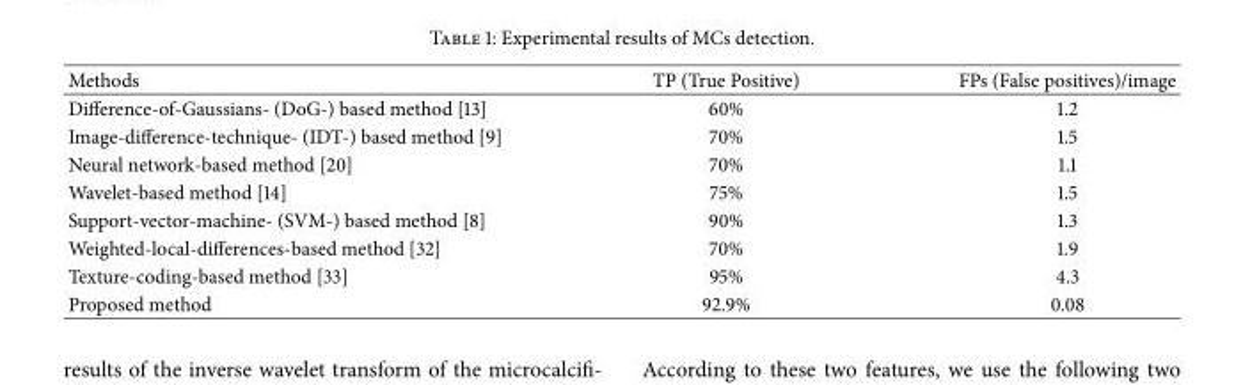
<table><thead><tr><td>Methods</td><td>TP (True Positive)</td><td>FPs (False positives)/image</td></tr></thead><tbody><tr><td>Difference-of-Gaussians- (DoG-) based method [13]</td><td>60%</td><td>1.2</td></tr><tr><td>Image-difference-technique- (IDT-) based method [9]</td><td>70%</td><td>1.5</td></tr><tr><td>Neural network-based method [20]</td><td>70%</td><td>1.1</td></tr><tr><td>Wavelet-based method [14]</td><td>75%</td><td>1.5</td></tr><tr><td>Support-vector-machine- (SVM-) based method [8]</td><td>90%</td><td>1.3</td></tr><tr><td>Weighted-local-differences-based method [32]</td><td>70%</td><td>1.9</td></tr><tr><td>Texture-coding-based method [33]</td><td>95%</td><td>4.3</td></tr><tr><td>Proposed method</td><td>92.9%</td><td>0.08</td></tr></tbody></table>